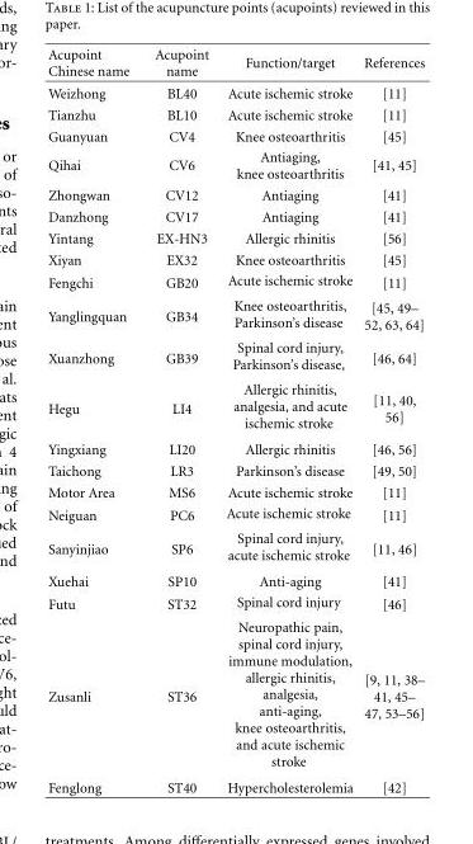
<table><thead><tr><td>Acupoint Chinese name</td><td>Acupoint name</td><td>Function/target</td><td>References</td></tr></thead><tbody><tr><td>Weizhong</td><td>BL40</td><td>Acute ischemic stroke</td><td>[11]</td></tr><tr><td>Tianzhu</td><td>BL10</td><td>Acute ischemic stroke</td><td>[11]</td></tr><tr><td>Guanyuan</td><td>CV4</td><td>Knee osteoarthritis</td><td>[45]</td></tr><tr><td>Qihai</td><td>CV6</td><td>Antiaging, knee osteoarthritis</td><td>[41, 45]</td></tr><tr><td>Zhongwan</td><td>CV12</td><td>Antiaging</td><td>[41]</td></tr><tr><td>Danzhong</td><td>CV17</td><td>Antiaging</td><td>[41]</td></tr><tr><td>Yintang</td><td>EX-HN3</td><td>Allergic rhinitis</td><td>[56]</td></tr><tr><td>Xiyan</td><td>EX32</td><td>Knee osteoarthritis</td><td>[45]</td></tr><tr><td>Fengchi</td><td>GB20</td><td>Acute ischemic stroke</td><td>[11]</td></tr><tr><td>Yanglingquan</td><td>GB34</td><td>Knee osteoarthritis, Parkinson’s disease</td><td>[45, 49– 52, 63, 64]</td></tr><tr><td>Xuanzhong</td><td>GB39</td><td>Spinal cord injury, Parkinson’s disease,</td><td>[46, 64]</td></tr><tr><td>Hegu</td><td>LI4</td><td>Allergic rhinitis, analgesia, and acute ischemic stroke</td><td>[11, 40, 56]</td></tr><tr><td>Yingxiang</td><td>LI20</td><td>Allergic rhinitis</td><td>[46, 56]</td></tr><tr><td>Taichong</td><td>LR3</td><td>Parkinson’s disease</td><td>[49, 50]</td></tr><tr><td>Motor Area</td><td>MS6</td><td>Acute ischemic stroke</td><td>[11]</td></tr><tr><td>Neiguan</td><td>PC6</td><td>Acute ischemic stroke</td><td>[11]</td></tr><tr><td>Sanyinjiao</td><td>SP6</td><td>Spinal cord injury, acute ischemic stroke</td><td>[11, 46]</td></tr><tr><td>Xuehai</td><td>SP10</td><td>Anti-aging</td><td>[41]</td></tr><tr><td>Futu</td><td>ST32</td><td>Spinal cord injury</td><td>[46]</td></tr><tr><td>Zusanli</td><td>ST36</td><td>Neuropathic pain, spinal cord injury, immune modulation, allergic rhinitis, analgesia, anti-aging, knee osteoarthritis, and acute ischemic stroke</td><td>[9, 11, 38– 41, 45– 47, 53–56]</td></tr><tr><td>Fenglong</td><td>ST40</td><td>Hypercholesterolemia</td><td>[42]</td></tr></tbody></table>